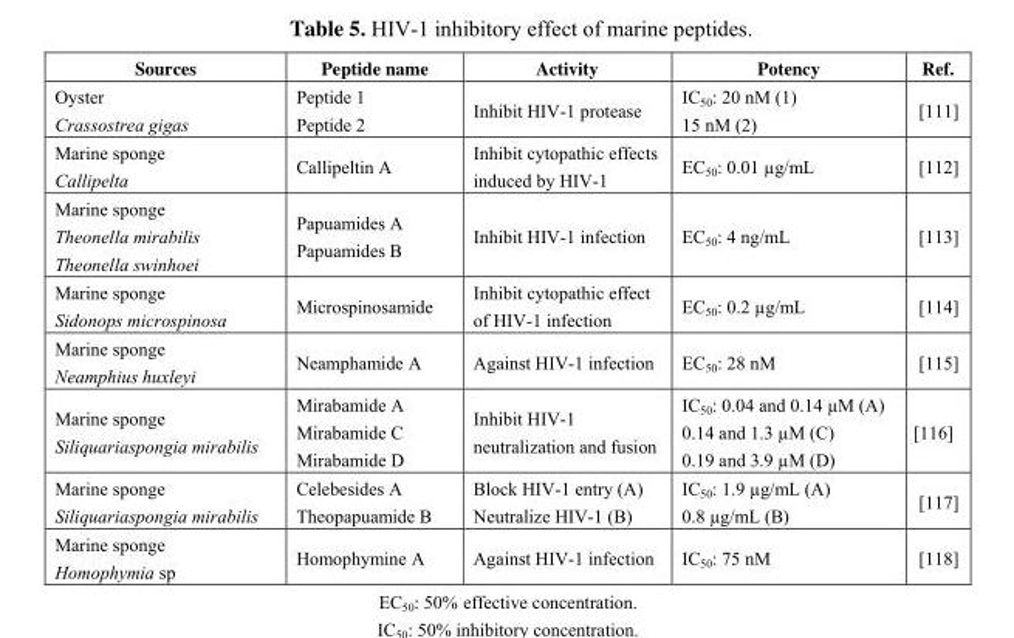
<table><thead><tr><td>Sources</td><td>Peptide name</td><td>Activity</td><td>Potency</td><td>Ref.</td></tr></thead><tbody><tr><td>Oyster Crassostrea gigas</td><td>Peptide 1 Peptide 2</td><td>Inhibit HIV-1 protease</td><td>IC<sub>50</sub>: 20 nM (1) 15 nM (2)</td><td>[111]</td></tr><tr><td>Marine sponge Callipelta</td><td>Callipeltin A</td><td>Inhibit cytopathic effects induced by HIV-1</td><td>EC<sub>50</sub>: 0.01 µg/mL</td><td>[112]</td></tr><tr><td>Marine sponge Theonella mirabilis Theonella swinhoei</td><td>Papuamides A Papuamides B</td><td>Inhibit HIV-1 infection</td><td>EC<sub>50</sub>: 4 ng/mL</td><td>[113]</td></tr><tr><td>Marine sponge Sidonops microspinosa</td><td>Microspinosamide</td><td>Inhibit cytopathic effect of HIV-1 infection</td><td>EC<sub>50</sub>: 0.2 µg/mL</td><td>[114]</td></tr><tr><td>Marine sponge Neamphius huxleyi</td><td>Neamphamide A</td><td>Against HIV-1 infection</td><td>EC<sub>50</sub>: 28 nM</td><td>[115]</td></tr><tr><td>Marine sponge Siliquariaspongia mirabilis</td><td>Mirabamide A Mirabamide C Mirabamide D</td><td>Inhibit HIV-1 neutralization and fusion</td><td>IC<sub>50</sub>: 0.04 and 0.14 µM (A) 0.14 and 1.3 µM (C) 0.19 and 3.9 µM (D)</td><td>[116]</td></tr><tr><td>Marine sponge Siliquariaspongia mirabilis</td><td>Celebesides A Theopapuamide B</td><td>Block HIV-1 entry (A) Neutralize HIV-1 (B)</td><td>IC<sub>50</sub>: 1.9 µg/mL (A) 0.8 µg/mL (B)</td><td>[117]</td></tr><tr><td>Marine sponge Homophymia sp</td><td>Homophymine A</td><td>Against HIV-1 infection</td><td>IC<sub>50</sub>: 75 nM</td><td>[118]</td></tr></tbody></table>